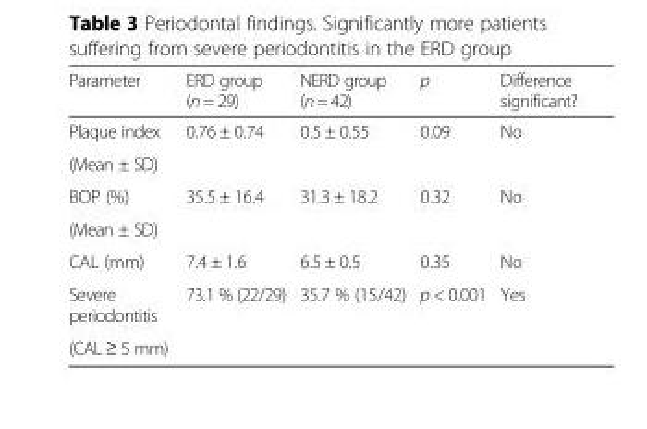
<table><thead><tr><td>Parameter</td><td>ERD group (n = 29)</td><td>NERD group (n = 42)</td><td>p</td><td>Difference significant?</td></tr></thead><tbody><tr><td>Plaque index</td><td rowspan="2">0.76 ± 0.74</td><td rowspan="2">0.5 ± 0.55</td><td rowspan="2">0.09</td><td rowspan="2">No</td></tr><tr><td>(Mean ± SD)</td></tr><tr><td>BOP (%)</td><td rowspan="2">35.5 ± 16.4</td><td rowspan="2">31.3 ± 18.2</td><td rowspan="2">0.32</td><td rowspan="2">No</td></tr><tr><td>(Mean ± SD)</td></tr><tr><td>CAL (mm)</td><td>7.4 ± 1.6</td><td>6.5 ± 0.5</td><td>0.35</td><td>No</td></tr><tr><td>Severe periodontitis</td><td rowspan="2">73.1 % (22/29)</td><td rowspan="2">35.7 % (15/42)</td><td rowspan="2">p &lt; 0.001</td><td rowspan="2">Yes</td></tr><tr><td>(CAL ≥ 5 mm)</td></tr></tbody></table>